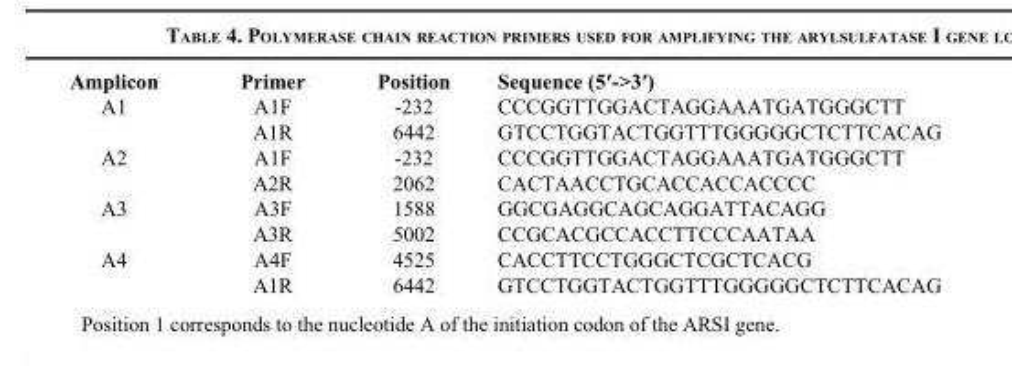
<table><thead><tr><td rowspan="9">Amplicon A1 A2 A3 A4</td><td rowspan="9">Primer A1F A1R A1F A2R A3F A3R A4F A1R</td><td rowspan="9">Position -232 6442 -232 2062 1588 5002 4525 6442</td><td rowspan="9">Sequence (5′-&gt;3′) CCCGGTTGGACTAGGAAATGATGGGCTT GTCCTGGTACTGGTTTGGGGGCTCTTCACAG CCCGGTTGGACTAGGAAATGATGGGCTT CACTAACCTGCACCACCACCCC GGCGAGGCAGCAGGATTACAGG CCGCACGCCACCTTCCCAATAA CACCTTCCTGGGCTCGCTCACG GTCCTGGTACTGGTTTGGGGGCTCTTCACAG</td></tr><tr></tr><tr></tr><tr></tr><tr></tr><tr></tr><tr></tr><tr></tr><tr></tr></thead><tbody></tbody></table>